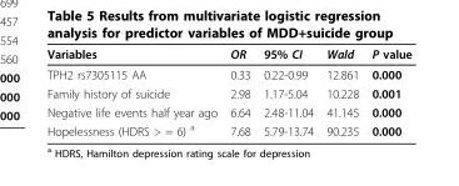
<table><thead><tr><td>Variables</td><td>OR</td><td>95% CI</td><td>Wald</td><td>P value</td></tr></thead><tbody><tr><td>TPH2 rs7305115 AA</td><td>0.33</td><td>0.22-0.99</td><td>12.861</td><td>0.000</td></tr><tr><td>Family history of suicide</td><td>2.98</td><td>1.17-5.04</td><td>10.228</td><td>0.001</td></tr><tr><td>Negative life events half year ago</td><td>6.64</td><td>2.48-11.04</td><td>41.145</td><td>0.000</td></tr><tr><td>Hopelessness (HDRS &gt; = 6) <sup>a</sup></td><td>7.68</td><td>5.79-13.74</td><td>90.235</td><td>0.000</td></tr></tbody></table>